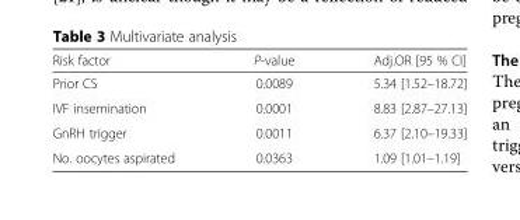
<table><thead><tr><td>Risk factor</td><td>P-value</td><td>Adj.OR [95 % CI]</td></tr></thead><tbody><tr><td>Prior CS</td><td>0.0089</td><td>5.34 [1.52–18.72]</td></tr><tr><td>IVF insemination</td><td>0.0001</td><td>8.83 [2.87–27.13]</td></tr><tr><td>GnRH trigger</td><td>0.0011</td><td>6.37 [2.10–19.33]</td></tr><tr><td>No. oocytes aspirated</td><td>0.0363</td><td>1.09 [1.01–1.19]</td></tr></tbody></table>